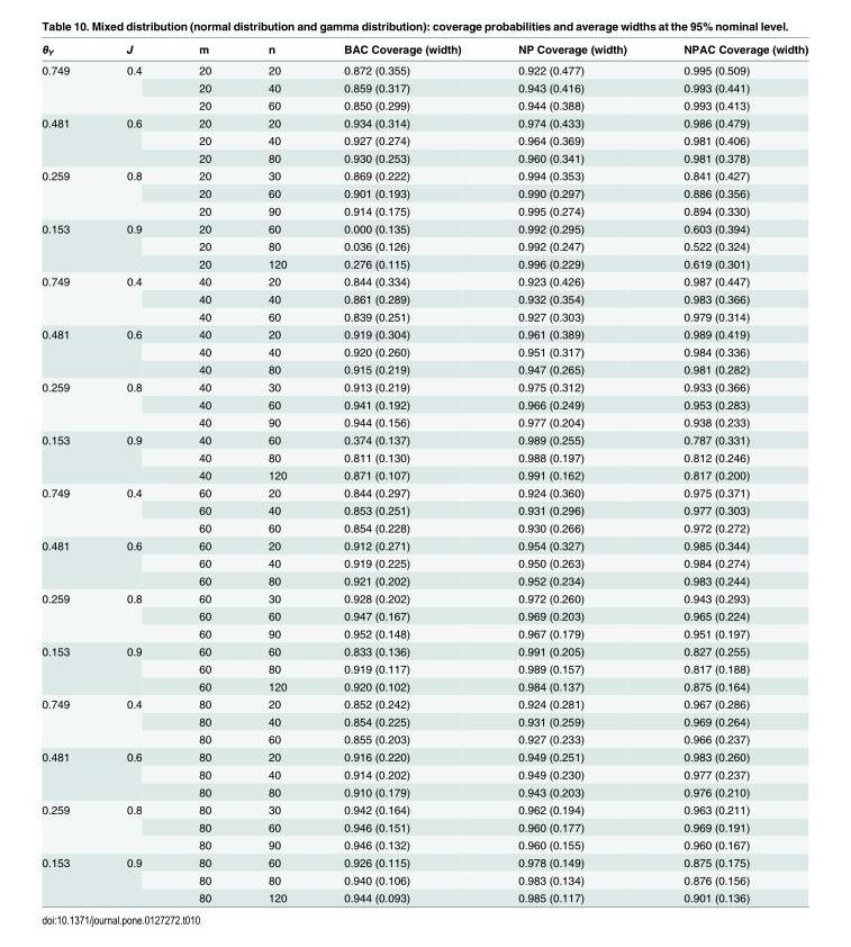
<table><thead><tr><td>θ<sub>Y</sub></td><td>J</td><td>m</td><td>n</td><td>BAC Coverage (width)</td><td>NP Coverage (width)</td><td>NPAC Coverage (width)</td></tr></thead><tbody><tr><td rowspan="3">0.749</td><td rowspan="3">0.4</td><td>20</td><td>20</td><td>0.872 (0.355)</td><td>0.922 (0.477)</td><td>0.995 (0.509)</td></tr><tr><td>20</td><td>40</td><td>0.859 (0.317)</td><td>0.943 (0.416)</td><td>0.993 (0.441)</td></tr><tr><td>20</td><td>60</td><td>0.850 (0.299)</td><td>0.944 (0.388)</td><td>0.993 (0.413)</td></tr><tr><td rowspan="3">0.481</td><td rowspan="3">0.6</td><td>20</td><td>20</td><td>0.934 (0.314)</td><td>0.974 (0.433)</td><td>0.986 (0.479)</td></tr><tr><td>20</td><td>40</td><td>0.927 (0.274)</td><td>0.964 (0.369)</td><td>0.981 (0.406)</td></tr><tr><td>20</td><td>80</td><td>0.930 (0.253)</td><td>0.960 (0.341)</td><td>0.981 (0.378)</td></tr><tr><td rowspan="3">0.259</td><td rowspan="3">0.8</td><td>20</td><td>30</td><td>0.869 (0.222)</td><td>0.994 (0.353)</td><td>0.841 (0.427)</td></tr><tr><td>20</td><td>60</td><td>0.901 (0.193)</td><td>0.990 (0.297)</td><td>0.886 (0.356)</td></tr><tr><td>20</td><td>90</td><td>0.914 (0.175)</td><td>0.995 (0.274)</td><td>0.894 (0.330)</td></tr><tr><td rowspan="3">0.153</td><td rowspan="3">0.9</td><td>20</td><td>60</td><td>0.000 (0.135)</td><td>0.992 (0.295)</td><td>0.603 (0.394)</td></tr><tr><td>20</td><td>80</td><td>0.036 (0.126)</td><td>0.992 (0.247)</td><td>0.522 (0.324)</td></tr><tr><td>20</td><td>120</td><td>0.276 (0.115)</td><td>0.996 (0.229)</td><td>0.619 (0.301)</td></tr><tr><td rowspan="3">0.749</td><td rowspan="3">0.4</td><td>40</td><td>20</td><td>0.844 (0.334)</td><td>0.923 (0.426)</td><td>0.987 (0.447)</td></tr><tr><td>40</td><td>40</td><td>0.861 (0.289)</td><td>0.932 (0.354)</td><td>0.983 (0.366)</td></tr><tr><td>40</td><td>60</td><td>0.839 (0.251)</td><td>0.927 (0.303)</td><td>0.979 (0.314)</td></tr><tr><td rowspan="3">0.481</td><td rowspan="3">0.6</td><td>40</td><td>20</td><td>0.919 (0.304)</td><td>0.961 (0.389)</td><td>0.989 (0.419)</td></tr><tr><td>40</td><td>40</td><td>0.920 (0.260)</td><td>0.951 (0.317)</td><td>0.984 (0.336)</td></tr><tr><td>40</td><td>80</td><td>0.915 (0.219)</td><td>0.947 (0.265)</td><td>0.981 (0.282)</td></tr><tr><td rowspan="3">0.259</td><td rowspan="3">0.8</td><td>40</td><td>30</td><td>0.913 (0.219)</td><td>0.975 (0.312)</td><td>0.933 (0.366)</td></tr><tr><td>40</td><td>60</td><td>0.941 (0.192)</td><td>0.966 (0.249)</td><td>0.953 (0.283)</td></tr><tr><td>40</td><td>90</td><td>0.944 (0.156)</td><td>0.977 (0.204)</td><td>0.938 (0.233)</td></tr><tr><td rowspan="3">0.153</td><td rowspan="3">0.9</td><td>40</td><td>60</td><td>0.374 (0.137)</td><td>0.989 (0.255)</td><td>0.787 (0.331)</td></tr><tr><td>40</td><td>80</td><td>0.811 (0.130)</td><td>0.988 (0.197)</td><td>0.812 (0.246)</td></tr><tr><td>40</td><td>120</td><td>0.871 (0.107)</td><td>0.991 (0.162)</td><td>0.817 (0.200)</td></tr><tr><td rowspan="3">0.749</td><td rowspan="3">0.4</td><td>60</td><td>20</td><td>0.844 (0.297)</td><td>0.924 (0.360)</td><td>0.975 (0.371)</td></tr><tr><td>60</td><td>40</td><td>0.853 (0.251)</td><td>0.931 (0.296)</td><td>0.977 (0.303)</td></tr><tr><td>60</td><td>60</td><td>0.854 (0.228)</td><td>0.930 (0.266)</td><td>0.972 (0.272)</td></tr><tr><td rowspan="3">0.481</td><td rowspan="3">0.6</td><td>60</td><td>20</td><td>0.912 (0.271)</td><td>0.954 (0.327)</td><td>0.985 (0.344)</td></tr><tr><td>60</td><td>40</td><td>0.919 (0.225)</td><td>0.950 (0.263)</td><td>0.984 (0.274)</td></tr><tr><td>60</td><td>80</td><td>0.921 (0.202)</td><td>0.952 (0.234)</td><td>0.983 (0.244)</td></tr><tr><td rowspan="3">0.259</td><td rowspan="3">0.8</td><td>60</td><td>30</td><td>0.928 (0.202)</td><td>0.972 (0.260)</td><td>0.943 (0.293)</td></tr><tr><td>60</td><td>60</td><td>0.947 (0.167)</td><td>0.969 (0.203)</td><td>0.965 (0.224)</td></tr><tr><td>60</td><td>90</td><td>0.952 (0.148)</td><td>0.967 (0.179)</td><td>0.951 (0.197)</td></tr><tr><td rowspan="3">0.153</td><td rowspan="3">0.9</td><td>60</td><td>60</td><td>0.833 (0.136)</td><td>0.991 (0.205)</td><td>0.827 (0.255)</td></tr><tr><td>60</td><td>80</td><td>0.919 (0.117)</td><td>0.989 (0.157)</td><td>0.817 (0.188)</td></tr><tr><td>60</td><td>120</td><td>0.920 (0.102)</td><td>0.984 (0.137)</td><td>0.875 (0.164)</td></tr><tr><td rowspan="3">0.749</td><td rowspan="3">0.4</td><td>80</td><td>20</td><td>0.852 (0.242)</td><td>0.924 (0.281)</td><td>0.967 (0.286)</td></tr><tr><td>80</td><td>40</td><td>0.854 (0.225)</td><td>0.931 (0.259)</td><td>0.969 (0.264)</td></tr><tr><td>80</td><td>60</td><td>0.855 (0.203)</td><td>0.927 (0.233)</td><td>0.966 (0.237)</td></tr><tr><td rowspan="3">0.481</td><td rowspan="3">0.6</td><td>80</td><td>20</td><td>0.916 (0.220)</td><td>0.949 (0.251)</td><td>0.983 (0.260)</td></tr><tr><td>80</td><td>40</td><td>0.914 (0.202)</td><td>0.949 (0.230)</td><td>0.977 (0.237)</td></tr><tr><td>80</td><td>80</td><td>0.910 (0.179)</td><td>0.943 (0.203)</td><td>0.976 (0.210)</td></tr><tr><td rowspan="3">0.259</td><td rowspan="3">0.8</td><td>80</td><td>30</td><td>0.942 (0.164)</td><td>0.962 (0.194)</td><td>0.963 (0.211)</td></tr><tr><td>80</td><td>60</td><td>0.946 (0.151)</td><td>0.960 (0.177)</td><td>0.969 (0.191)</td></tr><tr><td>80</td><td>90</td><td>0.946 (0.132)</td><td>0.960 (0.155)</td><td>0.960 (0.167)</td></tr><tr><td rowspan="3">0.153</td><td rowspan="3">0.9</td><td>80</td><td>60</td><td>0.926 (0.115)</td><td>0.978 (0.149)</td><td>0.875 (0.175)</td></tr><tr><td>80</td><td>80</td><td>0.940 (0.106)</td><td>0.983 (0.134)</td><td>0.876 (0.156)</td></tr><tr><td>80</td><td>120</td><td>0.944 (0.093)</td><td>0.985 (0.117)</td><td>0.901 (0.136)</td></tr></tbody></table>